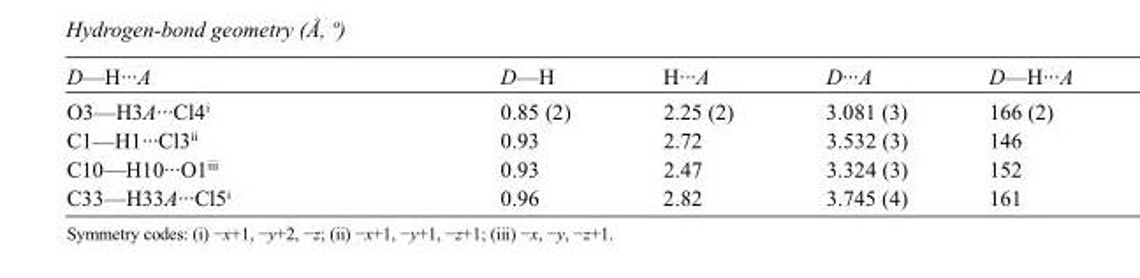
<table><tbody><tr><td>D—H···A</td><td>D—H</td><td>H···A</td><td>D···A</td><td>D—H···A</td></tr><tr><td>O3—H3A···Cl4<sup>i</sup></td><td>0.85 (2)</td><td>2.25 (2)</td><td>3.081 (3)</td><td>166 (2)</td></tr><tr><td>C1—H1···Cl3<sup>ii</sup></td><td>0.93</td><td>2.72</td><td>3.532 (3)</td><td>146</td></tr><tr><td>C10—H10···O1<sup>iii</sup></td><td>0.93</td><td>2.47</td><td>3.324 (3)</td><td>152</td></tr><tr><td>C33—H33A···Cl5<sup>i</sup></td><td>0.96</td><td>2.82</td><td>3.745 (4)</td><td>161</td></tr></tbody></table>